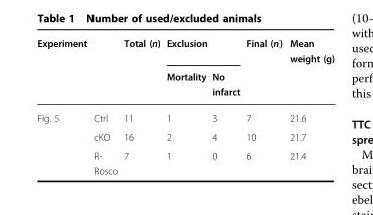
<table><thead><tr><td rowspan="2">Experiment</td><td rowspan="2"></td><td rowspan="2">Total (n)</td><td colspan="2">Exclusion</td><td rowspan="2">Final (n)</td><td rowspan="2">Mean weight (g)</td></tr><tr><td>Mortality</td><td>No infarct</td></tr></thead><tbody><tr><td rowspan="3">Fig. 5</td><td>Ctrl</td><td>11</td><td>1</td><td>3</td><td>7</td><td>21.6</td></tr><tr><td>cKO</td><td>16</td><td>2</td><td>4</td><td>10</td><td>21.7</td></tr><tr><td>R- Rosco</td><td>7</td><td>1</td><td>0</td><td>6</td><td>21.4</td></tr></tbody></table>